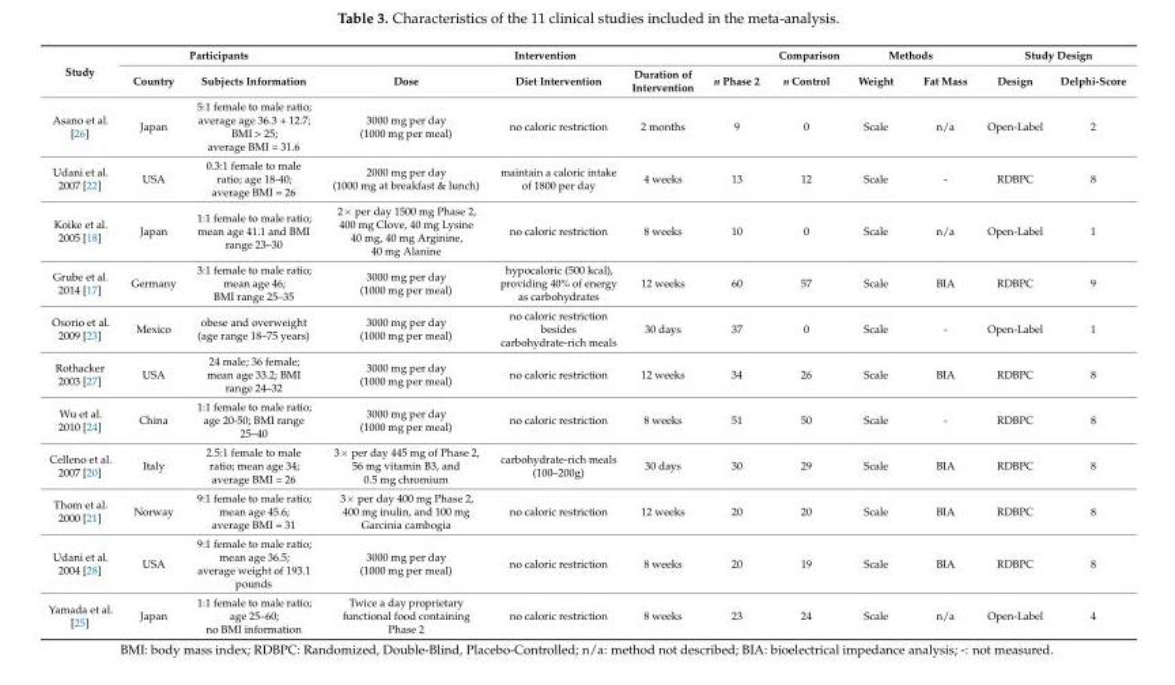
<table><thead><tr><td rowspan="2">Study</td><td colspan="2">Participants</td><td colspan="4">Intervention</td><td rowspan="2">Comparison n Control</td><td colspan="2">Methods</td><td colspan="2">Study Design</td></tr><tr><td>Country</td><td>Subjects Information</td><td>Dose</td><td>Diet Intervention</td><td>Duration of Intervention</td><td>n Phase 2</td><td>Weight</td><td>Fat Mass</td><td>Design</td><td>Delphi-Score</td></tr></thead><tbody><tr><td>Asano et al. [26]</td><td>Japan</td><td>5:1 female to male ratio; average age 36.3 + 12.7; BMI &gt; 25; average BMI = 31.6</td><td>3000 mg per day (1000 mg per meal)</td><td>no caloric restriction</td><td>2 months</td><td>9</td><td>0</td><td>Scale</td><td>n/a</td><td>Open-Label</td><td>2</td></tr><tr><td>Udani et al. 2007 [22]</td><td>USA</td><td>0.3:1 female to male ratio; age 18-40; average BMI = 26</td><td>2000 mg per day (1000 mg at breakfast &amp; lunch)</td><td>maintain a caloric intake of 1800 per day</td><td>4 weeks</td><td>13</td><td>12</td><td>Scale</td><td>-</td><td>RDBPC</td><td>8</td></tr><tr><td>Koike et al. 2005 [18]</td><td>Japan</td><td>1:1 female to male ratio; mean age 41.1 and BMI range 23–30</td><td>2× per day 1500 mg Phase 2, 400 mg Clove, 40 mg Lysine 40 mg, 40 mg Arginine, 40 mg Alanine</td><td>no caloric restriction</td><td>8 weeks</td><td>10</td><td>0</td><td>Scale</td><td>n/a</td><td>Open-Label</td><td>1</td></tr><tr><td>Grube et al. 2014 [17]</td><td>Germany</td><td>3:1 female to male ratio; mean age 46; BMI range 25–35</td><td>3000 mg per day (1000 mg per meal)</td><td>hypocaloric (500 kcal), providing 40% of energy as carbohydrates</td><td>12 weeks</td><td>60</td><td>57</td><td>Scale</td><td>BIA</td><td>RDBPC</td><td>9</td></tr><tr><td>Osorio et al. 2009 [23]</td><td>Mexico</td><td>obese and overweight (age range 18–75 years)</td><td>3000 mg per day (1000 mg per meal)</td><td>no caloric restriction besides carbohydrate-rich meals</td><td>30 days</td><td>37</td><td>0</td><td>Scale</td><td>-</td><td>Open-Label</td><td>1</td></tr><tr><td>Rothacker 2003 [27]</td><td>USA</td><td>24 male; 36 female; mean age 33.2; BMI range 24–32</td><td>3000 mg per day (1000 mg per meal)</td><td>no caloric restriction</td><td>12 weeks</td><td>34</td><td>26</td><td>Scale</td><td>BIA</td><td>RDBPC</td><td>8</td></tr><tr><td>Wu et al. 2010 [24]</td><td>China</td><td>1:1 female to male ratio; age 20-50; BMI range 25–40</td><td>3000 mg per day (1000 mg per meal)</td><td>no caloric restriction</td><td>8 weeks</td><td>51</td><td>50</td><td>Scale</td><td>-</td><td>RDBPC</td><td>8</td></tr><tr><td>Celleno et al. 2007 [20]</td><td>Italy</td><td>2.5:1 female to male ratio; mean age 34; average BMI = 26</td><td>3× per day 445 mg of Phase 2, 56 mg vitamin B3, and 0.5 mg chromium</td><td>carbohydrate-rich meals (100–200g)</td><td>30 days</td><td>30</td><td>29</td><td>Scale</td><td>BIA</td><td>RDBPC</td><td>8</td></tr><tr><td>Thom et al. 2000 [21]</td><td>Norway</td><td>9:1 female to male ratio; mean age 45.6; average BMI = 31</td><td>3× per day 400 mg Phase 2, 400 mg inulin, and 100 mg Garcinia cambogia</td><td>no caloric restriction</td><td>12 weeks</td><td>20</td><td>20</td><td>Scale</td><td>BIA</td><td>RDBPC</td><td>8</td></tr><tr><td>Udani et al. 2004 [28]</td><td>USA</td><td>9:1 female to male ratio; mean age 36.5; average weight of 193.1 pounds</td><td>3000 mg per day (1000 mg per meal)</td><td>no caloric restriction</td><td>8 weeks</td><td>20</td><td>19</td><td>Scale</td><td>BIA</td><td>RDBPC</td><td>8</td></tr><tr><td>Yamada et al. [25]</td><td>Japan</td><td>1:1 female to male ratio; age 25–60; no BMI information</td><td>Twice a day proprietary functional food containing Phase 2</td><td>no caloric restriction</td><td>8 weeks</td><td>23</td><td>24</td><td>Scale</td><td>n/a</td><td>Open-Label</td><td>4</td></tr></tbody></table>